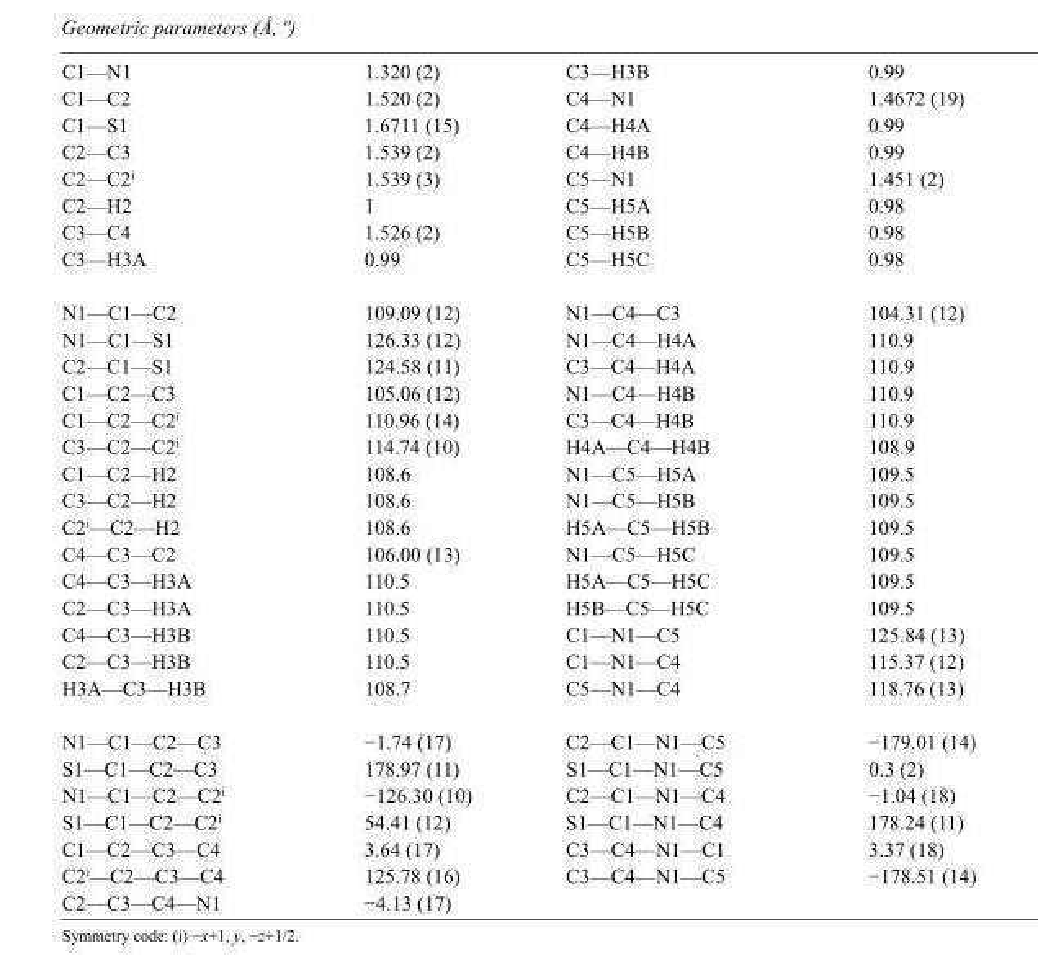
<table><tbody><tr><td>C1—N1</td><td>1.320 (2)</td><td>C3—H3B</td><td>0.99</td></tr><tr><td>C1—C2</td><td>1.520 (2)</td><td>C4—N1</td><td>1.4672 (19)</td></tr><tr><td>C1—S1</td><td>1.6711 (15)</td><td>C4—H4A</td><td>0.99</td></tr><tr><td>C2—C3</td><td>1.539 (2)</td><td>C4—H4B</td><td>0.99</td></tr><tr><td>C2—C2<sup>i</sup></td><td>1.539 (3)</td><td>C5—N1</td><td>1.451 (2)</td></tr><tr><td>C2—H2</td><td>1</td><td>C5—H5A</td><td>0.98</td></tr><tr><td>C3—C4</td><td>1.526 (2)</td><td>C5—H5B</td><td>0.98</td></tr><tr><td>C3—H3A</td><td>0.99</td><td>C5—H5C</td><td>0.98</td></tr><tr><td>N1—C1—C2</td><td>109.09 (12)</td><td>N1—C4—C3</td><td>104.31 (12)</td></tr><tr><td>N1—C1—S1</td><td>126.33 (12)</td><td>N1—C4—H4A</td><td>110.9</td></tr><tr><td>C2—C1—S1</td><td>124.58 (11)</td><td>C3—C4—H4A</td><td>110.9</td></tr><tr><td>C1—C2—C3</td><td>105.06 (12)</td><td>N1—C4—H4B</td><td>110.9</td></tr><tr><td>C1—C2—C2<sup>i</sup></td><td>110.96 (14)</td><td>C3—C4—H4B</td><td>110.9</td></tr><tr><td>C3—C2—C2<sup>i</sup></td><td>114.74 (10)</td><td>H4A—C4—H4B</td><td>108.9</td></tr><tr><td>C1—C2—H2</td><td>108.6</td><td>N1—C5—H5A</td><td>109.5</td></tr><tr><td>C3—C2—H2</td><td>108.6</td><td>N1—C5—H5B</td><td>109.5</td></tr><tr><td>C2<sup>i</sup>—C2—H2</td><td>108.6</td><td>H5A—C5—H5B</td><td>109.5</td></tr><tr><td>C4—C3—C2</td><td>106.00 (13)</td><td>N1—C5—H5C</td><td>109.5</td></tr><tr><td>C4—C3—H3A</td><td>110.5</td><td>H5A—C5—H5C</td><td>109.5</td></tr><tr><td>C2—C3—H3A</td><td>110.5</td><td>H5B—C5—H5C</td><td>109.5</td></tr><tr><td>C4—C3—H3B</td><td>110.5</td><td>C1—N1—C5</td><td>125.84 (13)</td></tr><tr><td>C2—C3—H3B</td><td>110.5</td><td>C1—N1—C4</td><td>115.37 (12)</td></tr><tr><td>H3A—C3—H3B</td><td>108.7</td><td>C5—N1—C4</td><td>118.76 (13)</td></tr><tr><td>N1—C1—C2—C3</td><td>−1.74 (17)</td><td>C2—C1—N1—C5</td><td>−179.01 (14)</td></tr><tr><td>S1—C1—C2—C3</td><td>178.97 (11)</td><td>S1—C1—N1—C5</td><td>0.3 (2)</td></tr><tr><td>N1—C1—C2—C2<sup>i</sup></td><td>−126.30 (10)</td><td>C2—C1—N1—C4</td><td>−1.04 (18)</td></tr><tr><td>S1—C1—C2—C2<sup>i</sup></td><td>54.41 (12)</td><td>S1—C1—N1—C4</td><td>178.24 (11)</td></tr><tr><td>C1—C2—C3—C4</td><td>3.64 (17)</td><td>C3—C4—N1—C1</td><td>3.37 (18)</td></tr><tr><td>C2<sup>i</sup>—C2—C3—C4</td><td>125.78 (16)</td><td>C3—C4—N1—C5</td><td>−178.51 (14)</td></tr><tr><td>C2—C3—C4—N1</td><td>−4.13 (17)</td><td></td><td></td></tr></tbody></table>